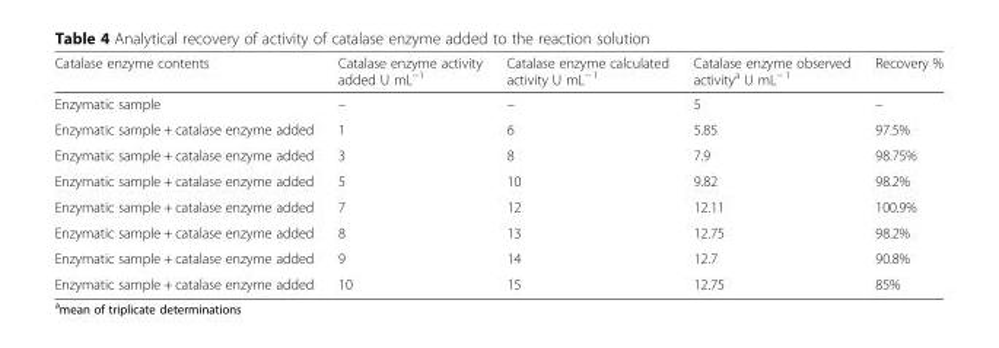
<table><thead><tr><td>Catalase enzyme contents</td><td>Catalase enzyme activity added U mL<sup>−1</sup></td><td>Catalase enzyme calculated activity U mL<sup>− 1</sup></td><td>Catalase enzyme observed activity<sup>a</sup> U mL<sup>− 1</sup></td><td>Recovery %</td></tr></thead><tbody><tr><td>Enzymatic sample</td><td>–</td><td>–</td><td>5</td><td>–</td></tr><tr><td>Enzymatic sample + catalase enzyme added</td><td>1</td><td>6</td><td>5.85</td><td>97.5%</td></tr><tr><td>Enzymatic sample + catalase enzyme added</td><td>3</td><td>8</td><td>7.9</td><td>98.75%</td></tr><tr><td>Enzymatic sample + catalase enzyme added</td><td>5</td><td>10</td><td>9.82</td><td>98.2%</td></tr><tr><td>Enzymatic sample + catalase enzyme added</td><td>7</td><td>12</td><td>12.11</td><td>100.9%</td></tr><tr><td>Enzymatic sample + catalase enzyme added</td><td>8</td><td>13</td><td>12.75</td><td>98.2%</td></tr><tr><td>Enzymatic sample + catalase enzyme added</td><td>9</td><td>14</td><td>12.7</td><td>90.8%</td></tr><tr><td>Enzymatic sample + catalase enzyme added</td><td>10</td><td>15</td><td>12.75</td><td>85%</td></tr></tbody></table>